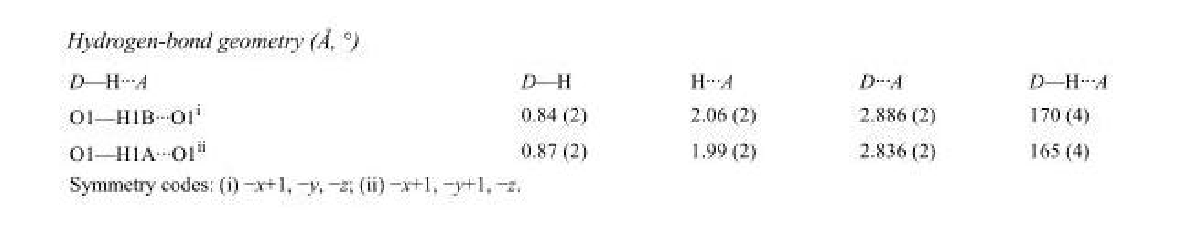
<table><tbody><tr><td>D—H···A</td><td>D—H</td><td>H···A</td><td>D···A</td><td>D—H···A</td></tr><tr><td>O1—H1B···O1<sup>i</sup></td><td>0.84 (2)</td><td>2.06 (2)</td><td>2.886 (2)</td><td>170 (4)</td></tr><tr><td>O1—H1A···O1<sup>ii</sup></td><td>0.87 (2)</td><td>1.99 (2)</td><td>2.836 (2)</td><td>165 (4)</td></tr></tbody></table>